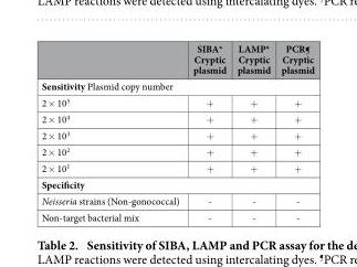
<table><thead><tr><td></td><td>SIBA* Cryptic plasmid</td><td>LAMP* Cryptic plasmid</td><td>PCR¶ Cryptic plasmid</td></tr></thead><tbody><tr><td colspan="4">Sensitivity Plasmid copy number</td></tr><tr><td>2 × 10<sup>5</sup></td><td>+</td><td>+</td><td>+</td></tr><tr><td>2 × 10<sup>4</sup></td><td>+</td><td>+</td><td>+</td></tr><tr><td>2 × 10<sup>3</sup></td><td>+</td><td>+</td><td>+</td></tr><tr><td>2 × 10<sup>2</sup></td><td>+</td><td>+</td><td>+</td></tr><tr><td>2 × 10<sup>1</sup></td><td>+</td><td>+</td><td>+</td></tr><tr><td colspan="4">Specificity</td></tr><tr><td>Neisseria strains (Non-gonococcal)</td><td>-</td><td>-</td><td>-</td></tr><tr><td>Non-target bacterial mix</td><td>-</td><td>-</td><td>-</td></tr></tbody></table>